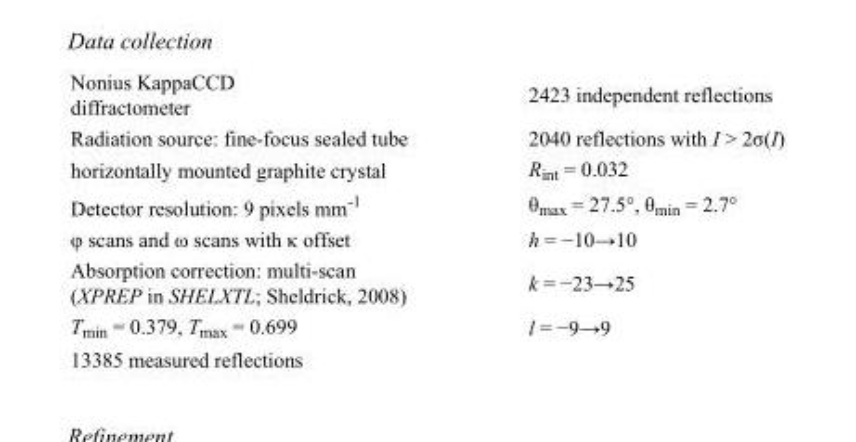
<table><tbody><tr><td>Nonius KappaCCD diffractometer</td><td>2423 independent reflections</td></tr><tr><td>Radiation source: fine-focus sealed tube</td><td>2040 reflections with I &gt; 2σ(I)</td></tr><tr><td>horizontally mounted graphite crystal</td><td>R<sub>int</sub> = 0.032</td></tr><tr><td>Detector resolution: 9 pixels mm<sup>-1</sup></td><td>θ<sub>max</sub> = 27.5°, θ<sub>min</sub> = 2.7°</td></tr><tr><td>φ scans and ω scans with κ offset</td><td>h = −10→10</td></tr><tr><td>Absorption correction: multi-scan (XPREP in SHELXTL; Sheldrick, 2008)</td><td>k = −23→25</td></tr><tr><td>T<sub>min</sub> = 0.379, T<sub>max</sub> = 0.699</td><td>l = −9→9</td></tr><tr><td>13385 measured reflections</td><td></td></tr></tbody></table>